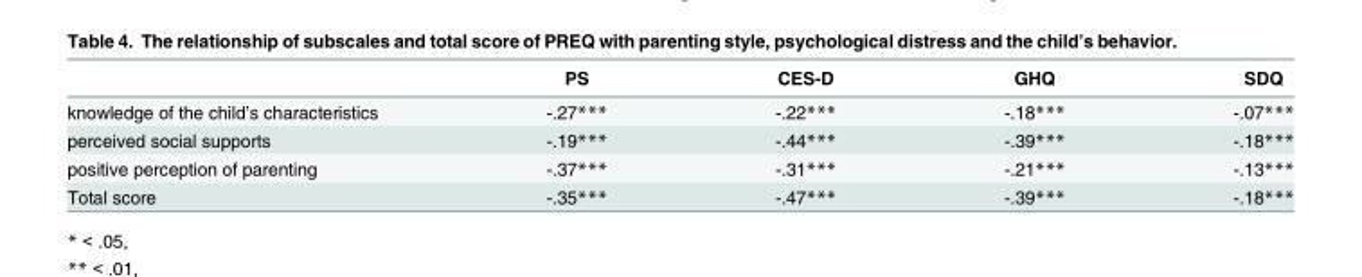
<table><thead><tr><td></td><td>PS</td><td>CES-D</td><td>GHQ</td><td>SDQ</td></tr></thead><tbody><tr><td>knowledge of the child’s characteristics</td><td>-.27***</td><td>-.22***</td><td>-.18***</td><td>-.07***</td></tr><tr><td>perceived social supports</td><td>-.19***</td><td>-.44***</td><td>-.39***</td><td>-.18***</td></tr><tr><td>positive perception of parenting</td><td>-.37***</td><td>-.31***</td><td>-.21***</td><td>-.13***</td></tr><tr><td>Total score</td><td>-.35***</td><td>-.47***</td><td>-.39***</td><td>-.18***</td></tr></tbody></table>